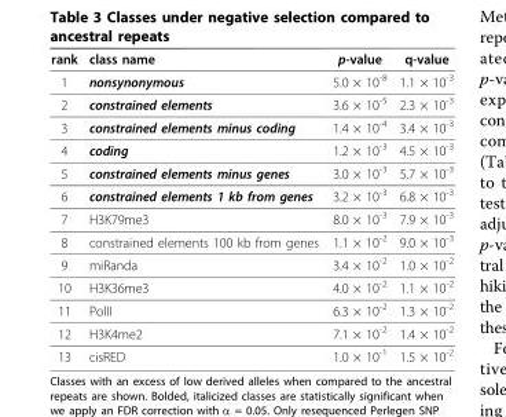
<table><thead><tr><td>rank</td><td>class name</td><td>p-value</td><td>q-value</td></tr></thead><tbody><tr><td>1</td><td>nonsynonymous</td><td>5.0 × 10<sup>-8</sup></td><td>1.1 × 10<sup>-3</sup></td></tr><tr><td>2</td><td>constrained elements</td><td>3.6 × 10<sup>-5</sup></td><td>2.3 × 10<sup>-3</sup></td></tr><tr><td>3</td><td>constrained elements minus coding</td><td>1.4 × 10<sup>-4</sup></td><td>3.4 × 10<sup>-3</sup></td></tr><tr><td>4</td><td>coding</td><td>1.2 × 10<sup>-3</sup></td><td>4.5 × 10<sup>-3</sup></td></tr><tr><td>5</td><td>constrained elements minus genes</td><td>3.0 × 10<sup>-3</sup></td><td>5.7 × 10<sup>-3</sup></td></tr><tr><td>6</td><td>constrained elements 1 kb from genes</td><td>3.2 × 10<sup>-3</sup></td><td>6.8 × 10<sup>-3</sup></td></tr><tr><td>7</td><td>H3K79me3</td><td>8.0 × 10<sup>-3</sup></td><td>7.9 × 10<sup>-3</sup></td></tr><tr><td>8</td><td>constrained elements 100 kb from genes</td><td>1.1 × 10<sup>-2</sup></td><td>9.0 × 10<sup>-3</sup></td></tr><tr><td>9</td><td>miRanda</td><td>3.4 × 10<sup>-2</sup></td><td>1.0 × 10<sup>-2</sup></td></tr><tr><td>10</td><td>H3K36me3</td><td>4.0 × 10<sup>-2</sup></td><td>1.1 × 10<sup>-2</sup></td></tr><tr><td>11</td><td>PolII</td><td>6.3 × 10<sup>-2</sup></td><td>1.3 × 10<sup>-2</sup></td></tr><tr><td>12</td><td>H3K4me2</td><td>7.1 × 10<sup>-2</sup></td><td>1.4 × 10<sup>-2</sup></td></tr><tr><td>13</td><td>cisRED</td><td>1.0 × 10<sup>-1</sup></td><td>1.5 × 10<sup>-2</sup></td></tr></tbody></table>